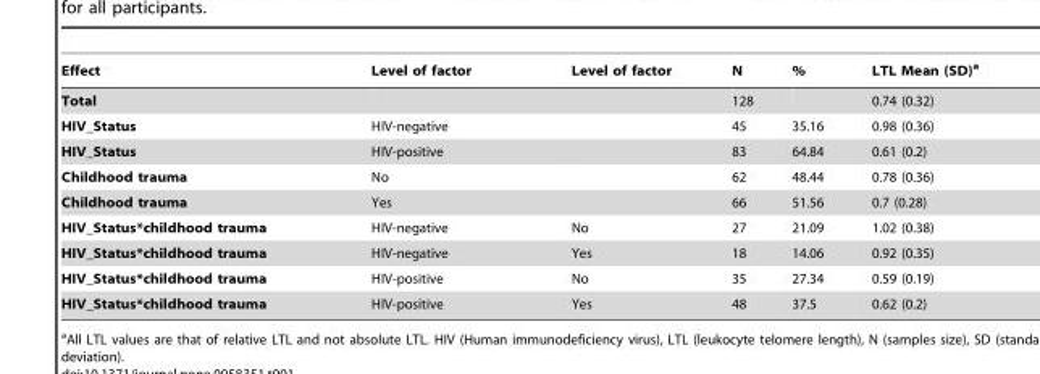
<table><thead><tr><td>Effect</td><td>Level of factor</td><td>Level of factor</td><td>N</td><td>%</td><td>LTL Mean (SD)<sup>a</sup></td></tr></thead><tbody><tr><td>Total</td><td></td><td></td><td>128</td><td></td><td>0.74 (0.32)</td></tr><tr><td>HIV_Status</td><td>HIV-negative</td><td></td><td>45</td><td>35.16</td><td>0.98 (0.36)</td></tr><tr><td>HIV_Status</td><td>HIV-positive</td><td></td><td>83</td><td>64.84</td><td>0.61 (0.2)</td></tr><tr><td>Childhood trauma</td><td>No</td><td></td><td>62</td><td>48.44</td><td>0.78 (0.36)</td></tr><tr><td>Childhood trauma</td><td>Yes</td><td></td><td>66</td><td>51.56</td><td>0.7 (0.28)</td></tr><tr><td>HIV_Status*childhood trauma</td><td>HIV-negative</td><td>No</td><td>27</td><td>21.09</td><td>1.02 (0.38)</td></tr><tr><td>HIV_Status*childhood trauma</td><td>HIV-negative</td><td>Yes</td><td>18</td><td>14.06</td><td>0.92 (0.35)</td></tr><tr><td>HIV_Status*childhood trauma</td><td>HIV-positive</td><td>No</td><td>35</td><td>27.34</td><td>0.59 (0.19)</td></tr><tr><td>HIV_Status*childhood trauma</td><td>HIV-positive</td><td>Yes</td><td>48</td><td>37.5</td><td>0.62 (0.2)</td></tr></tbody></table>